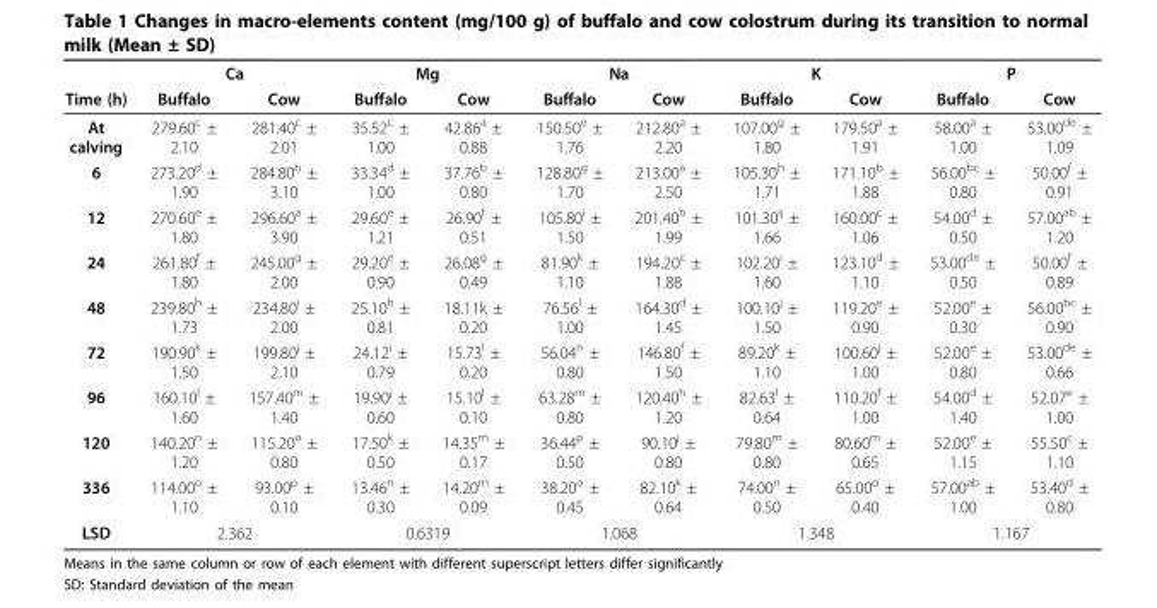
<table><thead><tr><td rowspan="2">Time (h)</td><td colspan="2">Ca</td><td colspan="2">Mg</td><td colspan="2">Na</td><td colspan="2">K</td><td colspan="2">P</td></tr><tr><td>Buffalo</td><td>Cow</td><td>Buffalo</td><td>Cow</td><td>Buffalo</td><td>Cow</td><td>Buffalo</td><td>Cow</td><td>Buffalo</td><td>Cow</td></tr></thead><tbody><tr><td>At calving</td><td>279.60<sup>c</sup> ± 2.10</td><td>281.40<sup>c</sup> ± 2.01</td><td>35.52<sup>c</sup> ± 1.00</td><td>42.86<sup>a</sup> ± 0.88</td><td>150.50<sup>e</sup> ± 1.76</td><td>212.80<sup>a</sup> ± 2.20</td><td>107.00<sup>g</sup> ± 1.80</td><td>179.50<sup>a</sup> ± 1.91</td><td>58.00<sup>a</sup> ± 1.00</td><td>53.00<sup>de</sup> ± 1.09</td></tr><tr><td>6</td><td>273.20<sup>d</sup> ± 1.90</td><td>284.80<sup>b</sup> ± 3.10</td><td>33.34<sup>d</sup> ± 1.00</td><td>37.76<sup>b</sup> ± 0.80</td><td>128.80<sup>g</sup> ± 1.70</td><td>213.00<sup>a</sup> ± 2.50</td><td>105.30<sup>h</sup> ± 1.71</td><td>171.10<sup>b</sup> ± 1.88</td><td>56.00<sup>bc</sup> ± 0.80</td><td>50.00<sup>f</sup> ± 0.91</td></tr><tr><td>12</td><td>270.60<sup>e</sup> ± 1.80</td><td>296.60<sup>a</sup> ± 3.90</td><td>29.60<sup>e</sup> ± 1.21</td><td>26.90<sup>f</sup> ± 0.51</td><td>105.80<sup>i</sup> ± 1.50</td><td>201.40<sup>b</sup> ± 1.99</td><td>101.30<sup>ij</sup> ± 1.66</td><td>160.00<sup>c</sup> ± 1.06</td><td>54.00<sup>d</sup> ± 0.50</td><td>57.00<sup>ab</sup> ± 1.20</td></tr><tr><td>24</td><td>261.80<sup>f</sup> ± 1.80</td><td>245.00<sup>g</sup> ± 2.00</td><td>29.20<sup>e</sup> ± 0.90</td><td>26.08<sup>g</sup> ± 0.49</td><td>81.90<sup>k</sup> ± 1.10</td><td>194.20<sup>c</sup> ± 1.88</td><td>102.20<sup>i</sup> ± 1.60</td><td>123.10<sup>d</sup> ± 1.10</td><td>53.00<sup>de</sup> ± 0.50</td><td>50.00<sup>f</sup> ± 0.89</td></tr><tr><td>48</td><td>239.80<sup>h</sup> ± 1.73</td><td>234.80<sup>i</sup> ± 2.00</td><td>25.10<sup>h</sup> ± 0.81</td><td>18.11k ± 0.20</td><td>76.56<sup>l</sup> ± 1.00</td><td>164.30<sup>d</sup> ± 1.45</td><td>100.10<sup>j</sup> ± 1.50</td><td>119.20<sup>e</sup> ± 0.90</td><td>52.00<sup>e</sup> ± 0.30</td><td>56.00<sup>bc</sup> ± 0.90</td></tr><tr><td>72</td><td>190.90<sup>k</sup> ± 1.50</td><td>199.80<sup>j</sup> ± 2.10</td><td>24.12<sup>i</sup> ± 0.79</td><td>15.73<sup>l</sup> ± 0.20</td><td>56.04<sup>n</sup> ± 0.80</td><td>146.80<sup>f</sup> ± 1.50</td><td>89.20<sup>k</sup> ± 1.10</td><td>100.60<sup>j</sup> ± 1.00</td><td>52.00<sup>e</sup> ± 0.80</td><td>53.00<sup>de</sup> ± 0.66</td></tr><tr><td>96</td><td>160.10<sup>l</sup> ± 1.60</td><td>157.40<sup>m</sup> ± 1.40</td><td>19.90<sup>j</sup> ± 0.60</td><td>15.10<sup>l</sup> ± 0.10</td><td>63.28<sup>m</sup> ± 0.80</td><td>120.40<sup>h</sup> ± 1.20</td><td>82.63<sup>l</sup> ± 0.64</td><td>110.20<sup>f</sup> ± 1.00</td><td>54.00<sup>d</sup> ± 1.40</td><td>52.07<sup>e</sup> ± 1.00</td></tr><tr><td>120</td><td>140.20<sup>n</sup> ± 1.20</td><td>115.20<sup>o</sup> ± 0.80</td><td>17.50<sup>k</sup> ± 0.50</td><td>14.35<sup>m</sup> ± 0.17</td><td>36.44<sup>p</sup> ± 0.50</td><td>90.10<sup>j</sup> ± 0.80</td><td>79.80<sup>m</sup> ± 0.80</td><td>80.60<sup>m</sup> ± 0.65</td><td>52.00<sup>e</sup> ± 1.15</td><td>55.50<sup>c</sup> ± 1.10</td></tr><tr><td>336</td><td>114.00<sup>o</sup> ± 1.10</td><td>93.00<sup>p</sup> ± 0.10</td><td>13.46<sup>n</sup> ± 0.30</td><td>14.20<sup>m</sup> ± 0.09</td><td>38.20<sup>o</sup> ± 0.45</td><td>82.10<sup>k</sup> ± 0.64</td><td>74.00<sup>n</sup> ± 0.50</td><td>65.00<sup>o</sup> ± 0.40</td><td>57.00<sup>ab</sup> ± 1.00</td><td>53.40<sup>d</sup> ± 0.80</td></tr><tr><td>LSD</td><td colspan="2">2.362</td><td colspan="2">0.6319</td><td colspan="2">1.068</td><td colspan="2">1.348</td><td colspan="2">1.167</td></tr></tbody></table>